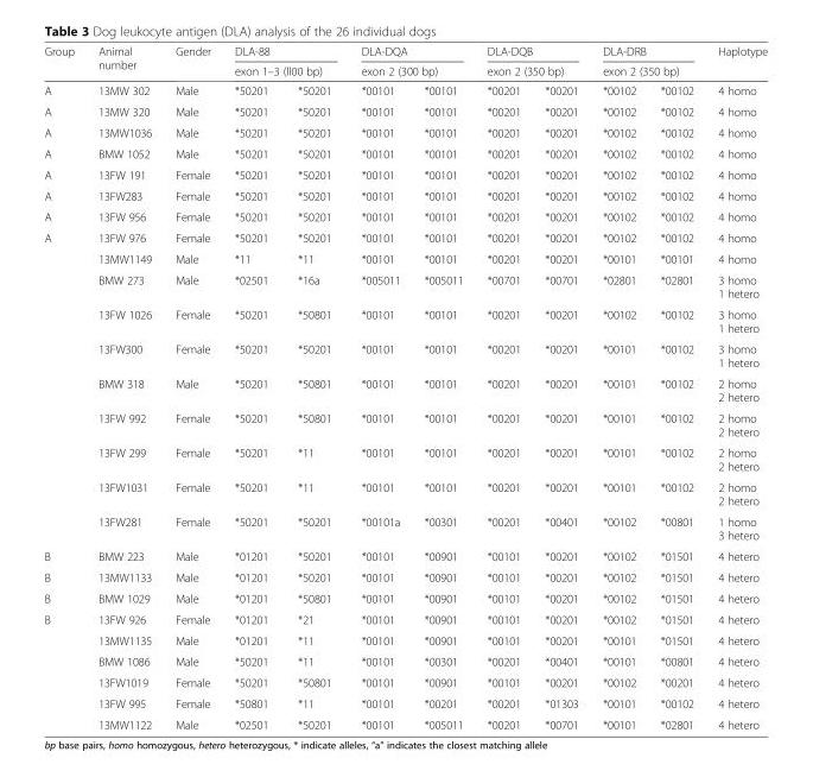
<table><thead><tr><td rowspan="3">Group A</td><td rowspan="3">Animal number 13MW 302</td><td rowspan="3">Gender Male</td><td rowspan="2" colspan="2">DLA-88 exon 1–3 (ll00 bp)</td><td rowspan="2" colspan="2">DLA-DQA exon 2 (300 bp)</td><td rowspan="2" colspan="2">DLA-DQB exon 2 (350 bp)</td><td rowspan="2" colspan="2">DLA-DRB exon 2 (350 bp)</td><td rowspan="3">Haplotype 4 homo</td></tr><tr></tr><tr><td>*50201</td><td>*50201</td><td>*00101</td><td>*00101</td><td>*00201</td><td>*00201</td><td>*00102</td><td>*00102</td></tr></thead><tbody><tr><td>A</td><td>13MW 320</td><td>Male</td><td>*50201</td><td>*50201</td><td>*00101</td><td>*00101</td><td>*00201</td><td>*00201</td><td>*00102</td><td>*00102</td><td>4 homo</td></tr><tr><td>A</td><td>13MW1036</td><td>Male</td><td>*50201</td><td>*50201</td><td>*00101</td><td>*00101</td><td>*00201</td><td>*00201</td><td>*00102</td><td>*00102</td><td>4 homo</td></tr><tr><td>A</td><td>BMW 1052</td><td>Male</td><td>*50201</td><td>*50201</td><td>*00101</td><td>*00101</td><td>*00201</td><td>*00201</td><td>*00102</td><td>*00102</td><td>4 homo</td></tr><tr><td>A</td><td>13FW 191</td><td>Female</td><td>*50201</td><td>*50201</td><td>*00101</td><td>*00101</td><td>*00201</td><td>*00201</td><td>*00102</td><td>*00102</td><td>4 homo</td></tr><tr><td>A</td><td>13FW283</td><td>Female</td><td>*50201</td><td>*50201</td><td>*00101</td><td>*00101</td><td>*00201</td><td>*00201</td><td>*00102</td><td>*00102</td><td>4 homo</td></tr><tr><td>A</td><td>13FW 956</td><td>Female</td><td>*50201</td><td>*50201</td><td>*00101</td><td>*00101</td><td>*00201</td><td>*00201</td><td>*00102</td><td>*00102</td><td>4 homo</td></tr><tr><td rowspan="10">A</td><td>13FW 976</td><td>Female</td><td>*50201</td><td>*50201</td><td>*00101</td><td>*00101</td><td>*00201</td><td>*00201</td><td>*00102</td><td>*00102</td><td>4 homo</td></tr><tr><td>13MW1149</td><td>Male</td><td>*11</td><td>*11</td><td>*00101</td><td>*00101</td><td>*00201</td><td>*00201</td><td>*00101</td><td>*00101</td><td>4 homo</td></tr><tr><td>BMW 273</td><td>Male</td><td>*02501</td><td>*16a</td><td>*005011</td><td>*005011</td><td>*00701</td><td>*00701</td><td>*02801</td><td>*02801</td><td>3 homo 1 hetero</td></tr><tr><td>13FW 1026</td><td>Female</td><td>*50201</td><td>*50801</td><td>*00101</td><td>*00101</td><td>*00201</td><td>*00201</td><td>*00102</td><td>*00102</td><td>3 homo 1 hetero</td></tr><tr><td>13FW300</td><td>Female</td><td>*50201</td><td>*50201</td><td>*00101</td><td>*00101</td><td>*00201</td><td>*00201</td><td>*00101</td><td>*00102</td><td>3 homo 1 hetero</td></tr><tr><td>BMW 318</td><td>Male</td><td>*50201</td><td>*50801</td><td>*00101</td><td>*00101</td><td>*00201</td><td>*00201</td><td>*00101</td><td>*00102</td><td>2 homo 2 hetero</td></tr><tr><td>13FW 992</td><td>Female</td><td>*50201</td><td>*50801</td><td>*00101</td><td>*00101</td><td>*00201</td><td>*00201</td><td>*00101</td><td>*00102</td><td>2 homo 2 hetero</td></tr><tr><td>13FW 299</td><td>Female</td><td>*50201</td><td>*11</td><td>*00101</td><td>*00101</td><td>*00201</td><td>*00201</td><td>*00101</td><td>*00102</td><td>2 homo 2 hetero</td></tr><tr><td>13FW1031</td><td>Female</td><td>*50201</td><td>*11</td><td>*00101</td><td>*00101</td><td>*00201</td><td>*00201</td><td>*00101</td><td>*00102</td><td>2 homo 2 hetero</td></tr><tr><td>13FW281</td><td>Female</td><td>*50201</td><td>*50201</td><td>*00101a</td><td>*00301</td><td>*00201</td><td>*00401</td><td>*00102</td><td>*00801</td><td>1 homo 3 hetero</td></tr><tr><td>B</td><td>BMW 223</td><td>Male</td><td>*01201</td><td>*50201</td><td>*00101</td><td>*00901</td><td>*00101</td><td>*00201</td><td>*00102</td><td>*01501</td><td>4 hetero</td></tr><tr><td>B</td><td>13MW1133</td><td>Male</td><td>*01201</td><td>*50201</td><td>*00101</td><td>*00901</td><td>*00101</td><td>*00201</td><td>*00102</td><td>*01501</td><td>4 hetero</td></tr><tr><td>B</td><td>BMW 1029</td><td>Male</td><td>*01201</td><td>*50801</td><td>*00101</td><td>*00901</td><td>*00101</td><td>*00201</td><td>*00102</td><td>*01501</td><td>4 hetero</td></tr><tr><td rowspan="6">B</td><td>13FW 926</td><td>Female</td><td>*01201</td><td>*21</td><td>*00101</td><td>*00901</td><td>*00101</td><td>*00201</td><td>*00102</td><td>*01501</td><td>4 hetero</td></tr><tr><td>13MW1135</td><td>Male</td><td>*01201</td><td>*11</td><td>*00101</td><td>*00901</td><td>*00101</td><td>*00201</td><td>*00101</td><td>*01501</td><td>4 hetero</td></tr><tr><td>BMW 1086</td><td>Male</td><td>*50201</td><td>*11</td><td>*00101</td><td>*00301</td><td>*00201</td><td>*00401</td><td>*00101</td><td>*00801</td><td>4 hetero</td></tr><tr><td>13FW1019</td><td>Female</td><td>*50201</td><td>*50801</td><td>*00101</td><td>*00901</td><td>*00101</td><td>*00201</td><td>*00102</td><td>*00201</td><td>4 hetero</td></tr><tr><td>13FW 995</td><td>Female</td><td>*50801</td><td>*11</td><td>*00101</td><td>*00201</td><td>*00201</td><td>*01303</td><td>*00101</td><td>*00102</td><td>4 hetero</td></tr><tr><td>13MW1122</td><td>Male</td><td>*02501</td><td>*50201</td><td>*00101</td><td>*005011</td><td>*00201</td><td>*00701</td><td>*00101</td><td>*02801</td><td>4 hetero</td></tr></tbody></table>